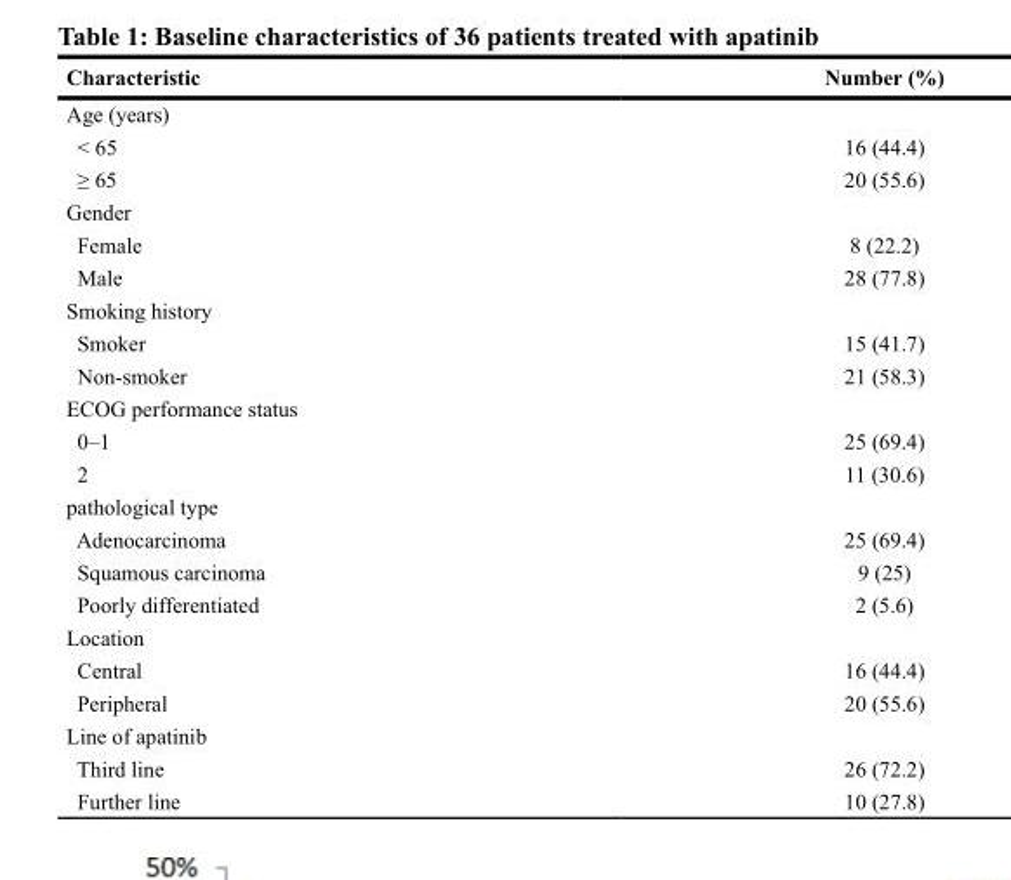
<table><thead><tr><td>Characteristic</td><td>Number (%)</td></tr></thead><tbody><tr><td colspan="2">Age (years)</td></tr><tr><td>&lt; 65</td><td>16 (44.4)</td></tr><tr><td>≥ 65</td><td>20 (55.6)</td></tr><tr><td colspan="2">Gender</td></tr><tr><td>Female</td><td>8 (22.2)</td></tr><tr><td>Male</td><td>28 (77.8)</td></tr><tr><td colspan="2">Smoking history</td></tr><tr><td>Smoker</td><td>15 (41.7)</td></tr><tr><td>Non-smoker</td><td>21 (58.3)</td></tr><tr><td colspan="2">ECOG performance status</td></tr><tr><td>0–1</td><td>25 (69.4)</td></tr><tr><td>2</td><td>11 (30.6)</td></tr><tr><td colspan="2">pathological type</td></tr><tr><td>Adenocarcinoma</td><td>25 (69.4)</td></tr><tr><td>Squamous carcinoma</td><td>9 (25)</td></tr><tr><td>Poorly differentiated</td><td>2 (5.6)</td></tr><tr><td colspan="2">Location</td></tr><tr><td>Central</td><td>16 (44.4)</td></tr><tr><td>Peripheral</td><td>20 (55.6)</td></tr><tr><td colspan="2">Line of apatinib</td></tr><tr><td>Third line</td><td>26 (72.2)</td></tr><tr><td>Further line</td><td>10 (27.8)</td></tr></tbody></table>